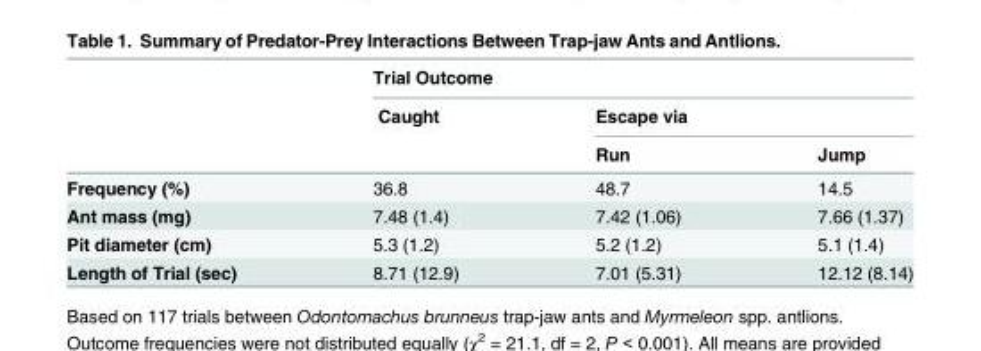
<table><thead><tr><td rowspan="3"></td><td colspan="3">Trial Outcome</td></tr><tr><td rowspan="2">Caught</td><td colspan="2">Escape via</td></tr><tr><td>Run</td><td>Jump</td></tr></thead><tbody><tr><td>Frequency (%)</td><td>36.8</td><td>48.7</td><td>14.5</td></tr><tr><td>Ant mass (mg)</td><td>7.48 (1.4)</td><td>7.42 (1.06)</td><td>7.66 (1.37)</td></tr><tr><td>Pit diameter (cm)</td><td>5.3 (1.2)</td><td>5.2 (1.2)</td><td>5.1 (1.4)</td></tr><tr><td>Length of Trial (sec)</td><td>8.71 (12.9)</td><td>7.01 (5.31)</td><td>12.12 (8.14)</td></tr></tbody></table>